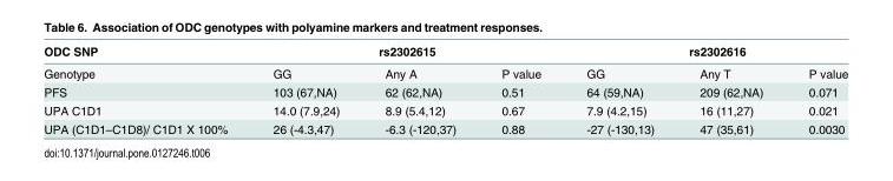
<table><thead><tr><td rowspan="2">ODC SNP Genotype</td><td colspan="3">rs2302615</td><td colspan="3">rs2302616</td></tr><tr><td>GG</td><td>Any A</td><td>P value</td><td>GG</td><td>Any T</td><td>P value</td></tr></thead><tbody><tr><td>PFS</td><td>103 (67,NA)</td><td>62 (62,NA)</td><td>0.51</td><td>64 (59,NA)</td><td>209 (62,NA)</td><td>0.071</td></tr><tr><td>UPA C1D1</td><td>14.0 (7.9,24)</td><td>8.9 (5.4,12)</td><td>0.67</td><td>7.9 (4.2,15)</td><td>16 (11,27)</td><td>0.021</td></tr><tr><td>UPA (C1D1–C1D8)/ C1D1 X 100%</td><td>26 (-4.3,47)</td><td>-6.3 (-120,37)</td><td>0.88</td><td>-27 (-130,13)</td><td>47 (35,61)</td><td>0.0030</td></tr></tbody></table>